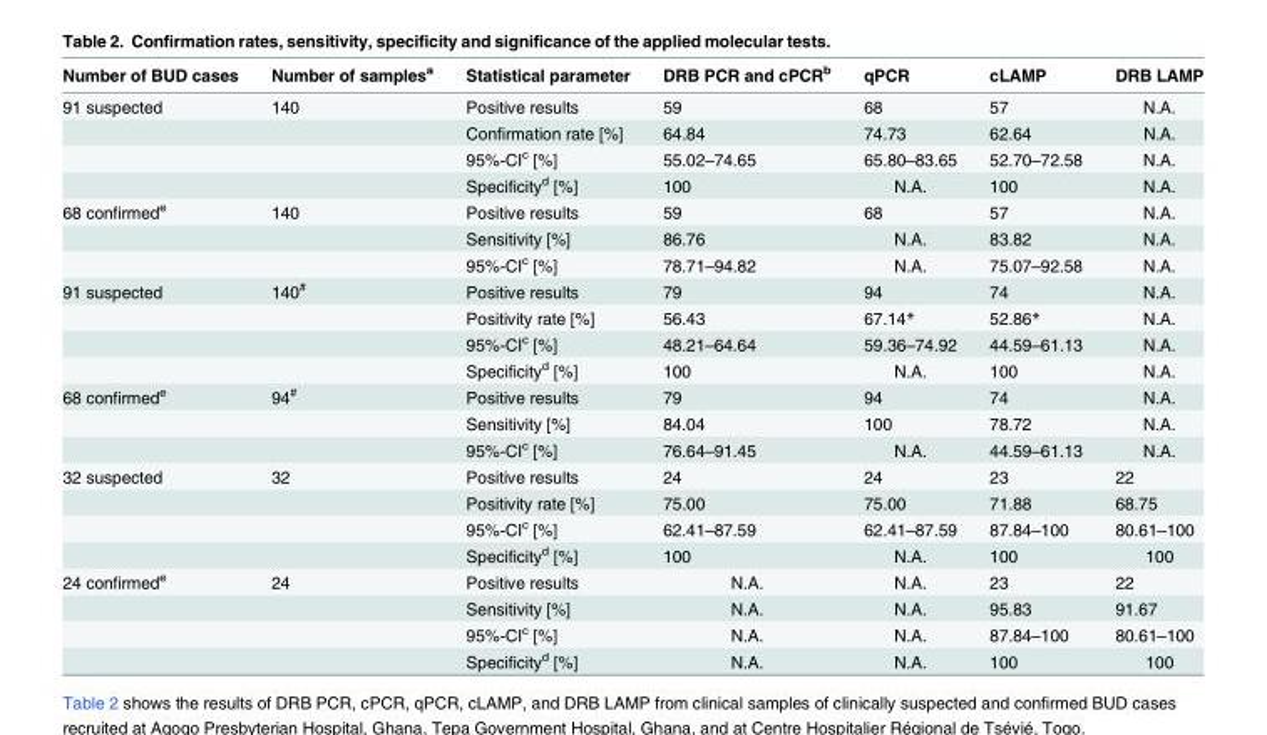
<table><thead><tr><td>Number of BUD cases</td><td>Number of samples<sup>a</sup></td><td>Statistical parameter</td><td>DRB PCR and cPCR<sup>b</sup></td><td>qPCR</td><td>cLAMP</td><td>DRB LAMP</td></tr></thead><tbody><tr><td rowspan="4">91 suspected</td><td>140</td><td>Positive results</td><td>59</td><td>68</td><td>57</td><td>N.A.</td></tr><tr><td></td><td>Confirmation rate [%]</td><td>64.84</td><td>74.73</td><td>62.64</td><td>N.A.</td></tr><tr><td></td><td>95%-CI<sup>c</sup> [%]</td><td>55.02–74.65</td><td>65.80–83.65</td><td>52.70–72.58</td><td>N.A.</td></tr><tr><td></td><td>Specificity<sup>d</sup> [%]</td><td>100</td><td>N.A.</td><td>100</td><td>N.A.</td></tr><tr><td rowspan="3">68 confirmed<sup>e</sup></td><td>140</td><td>Positive results</td><td>59</td><td>68</td><td>57</td><td>N.A.</td></tr><tr><td></td><td>Sensitivity [%]</td><td>86.76</td><td>N.A.</td><td>83.82</td><td>N.A.</td></tr><tr><td></td><td>95%-CI<sup>c</sup> [%]</td><td>78.71–94.82</td><td>N.A.</td><td>75.07–92.58</td><td>N.A.</td></tr><tr><td rowspan="4">91 suspected</td><td>140<sup>#</sup></td><td>Positive results</td><td>79</td><td>94</td><td>74</td><td>N.A.</td></tr><tr><td></td><td>Positivity rate [%]</td><td>56.43</td><td>67.14*</td><td>52.86*</td><td>N.A.</td></tr><tr><td></td><td>95%-CI<sup>c</sup> [%]</td><td>48.21–64.64</td><td>59.36–74.92</td><td>44.59–61.13</td><td>N.A.</td></tr><tr><td></td><td>Specificity<sup>d</sup> [%]</td><td>100</td><td>N.A.</td><td>100</td><td>N.A.</td></tr><tr><td rowspan="3">68 confirmed<sup>e</sup></td><td>94<sup>#</sup></td><td>Positive results</td><td>79</td><td>94</td><td>74</td><td>N.A.</td></tr><tr><td></td><td>Sensitivity [%]</td><td>84.04</td><td>100</td><td>78.72</td><td>N.A.</td></tr><tr><td></td><td>95%-CI<sup>c</sup> [%]</td><td>76.64–91.45</td><td>N.A.</td><td>44.59–61.13</td><td>N.A.</td></tr><tr><td rowspan="4">32 suspected</td><td>32</td><td>Positive results</td><td>24</td><td>24</td><td>23</td><td>22</td></tr><tr><td></td><td>Positivity rate [%]</td><td>75.00</td><td>75.00</td><td>71.88</td><td>68.75</td></tr><tr><td></td><td>95%-CI<sup>c</sup> [%]</td><td>62.41–87.59</td><td>62.41–87.59</td><td>87.84–100</td><td>80.61–100</td></tr><tr><td></td><td>Specificity<sup>d</sup> [%]</td><td>100</td><td>N.A.</td><td>100</td><td>100</td></tr><tr><td rowspan="4">24 confirmed<sup>e</sup></td><td>24</td><td>Positive results</td><td>N.A.</td><td>N.A.</td><td>23</td><td>22</td></tr><tr><td></td><td>Sensitivity [%]</td><td>N.A.</td><td>N.A.</td><td>95.83</td><td>91.67</td></tr><tr><td></td><td>95%-CI<sup>c</sup> [%]</td><td>N.A.</td><td>N.A.</td><td>87.84–100</td><td>80.61–100</td></tr><tr><td></td><td>Specificity<sup>d</sup> [%]</td><td>N.A.</td><td>N.A.</td><td>100</td><td>100</td></tr></tbody></table>